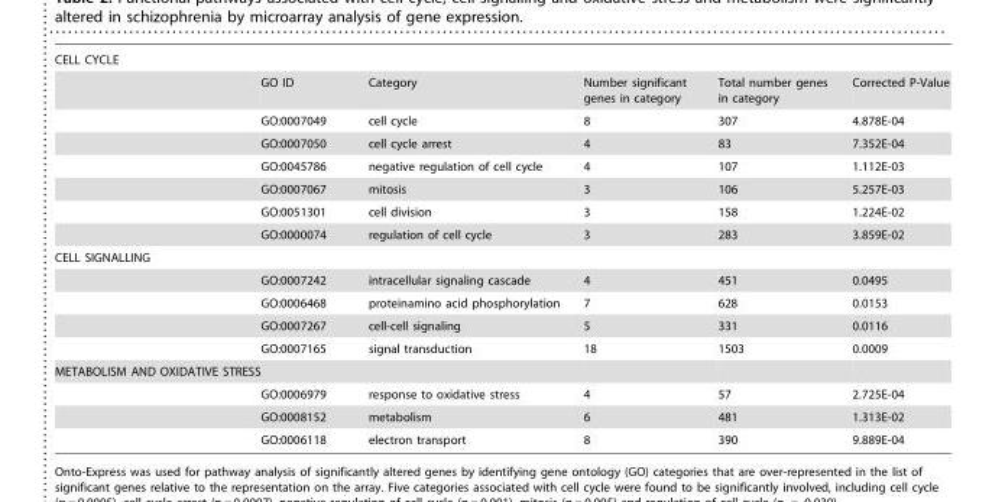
<table><tbody><tr><td colspan="6">CELL CYCLE</td></tr><tr><td></td><td>GO ID</td><td>Category</td><td>Number significant genes in category</td><td>Total number genes in category</td><td>Corrected P-Value</td></tr><tr><td></td><td>GO:0007049</td><td>cell cycle</td><td>8</td><td>307</td><td>4.878E-04</td></tr><tr><td></td><td>GO:0007050</td><td>cell cycle arrest</td><td>4</td><td>83</td><td>7.352E-04</td></tr><tr><td></td><td>GO:0045786</td><td>negative regulation of cell cycle</td><td>4</td><td>107</td><td>1.112E-03</td></tr><tr><td></td><td>GO:0007067</td><td>mitosis</td><td>3</td><td>106</td><td>5.257E-03</td></tr><tr><td></td><td>GO:0051301</td><td>cell division</td><td>3</td><td>158</td><td>1.224E-02</td></tr><tr><td></td><td>GO:0000074</td><td>regulation of cell cycle</td><td>3</td><td>283</td><td>3.859E-02</td></tr><tr><td colspan="6">CELL SIGNALLING</td></tr><tr><td></td><td>GO:0007242</td><td>intracellular signaling cascade</td><td>4</td><td>451</td><td>0.0495</td></tr><tr><td></td><td>GO:0006468</td><td>proteinamino acid phosphorylation</td><td>7</td><td>628</td><td>0.0153</td></tr><tr><td></td><td>GO:0007267</td><td>cell-cell signaling</td><td>5</td><td>331</td><td>0.0116</td></tr><tr><td></td><td>GO:0007165</td><td>signal transduction</td><td>18</td><td>1503</td><td>0.0009</td></tr><tr><td colspan="6">METABOLISM AND OXIDATIVE STRESS</td></tr><tr><td></td><td>GO:0006979</td><td>response to oxidative stress</td><td>4</td><td>57</td><td>2.725E-04</td></tr><tr><td></td><td>GO:0008152</td><td>metabolism</td><td>6</td><td>481</td><td>1.313E-02</td></tr><tr><td></td><td>GO:0006118</td><td>electron transport</td><td>8</td><td>390</td><td>9.889E-04</td></tr></tbody></table>